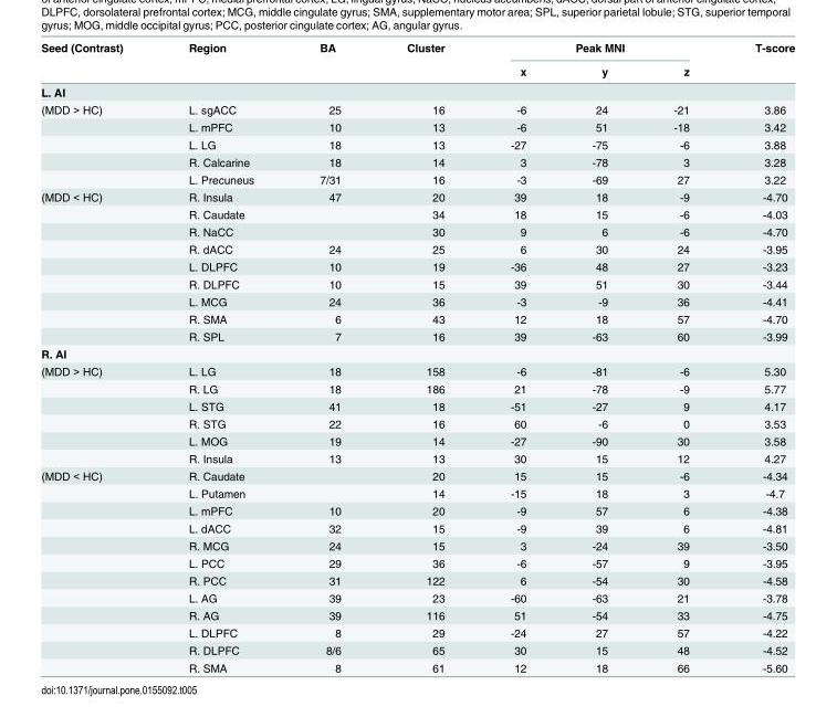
<table><thead><tr><td rowspan="2">Seed (Contrast)</td><td rowspan="2">Region</td><td rowspan="2">BA</td><td rowspan="2">Cluster</td><td colspan="3">Peak MNI</td><td rowspan="2">T-score</td></tr><tr><td>x</td><td>y</td><td>z</td></tr></thead><tbody><tr><td colspan="8">L. AI</td></tr><tr><td rowspan="5">(MDD &gt; HC)</td><td>L. sgACC</td><td>25</td><td>16</td><td>-6</td><td>24</td><td>-21</td><td>3.86</td></tr><tr><td>L. mPFC</td><td>10</td><td>13</td><td>-6</td><td>51</td><td>-18</td><td>3.42</td></tr><tr><td>L. LG</td><td>18</td><td>13</td><td>-27</td><td>-75</td><td>-6</td><td>3.88</td></tr><tr><td>R. Calcarine</td><td>18</td><td>14</td><td>3</td><td>-78</td><td>3</td><td>3.28</td></tr><tr><td>L. Precuneus</td><td>7/31</td><td>16</td><td>-3</td><td>-69</td><td>27</td><td>3.22</td></tr><tr><td rowspan="9">(MDD &lt; HC)</td><td>R. Insula</td><td>47</td><td>20</td><td>39</td><td>18</td><td>-9</td><td>-4.70</td></tr><tr><td>R. Caudate</td><td></td><td>34</td><td>18</td><td>15</td><td>-6</td><td>-4.03</td></tr><tr><td>R. NaCC</td><td></td><td>30</td><td>9</td><td>6</td><td>-6</td><td>-4.70</td></tr><tr><td>R. dACC</td><td>24</td><td>25</td><td>6</td><td>30</td><td>24</td><td>-3.95</td></tr><tr><td>L. DLPFC</td><td>10</td><td>19</td><td>-36</td><td>48</td><td>27</td><td>-3.23</td></tr><tr><td>R. DLPFC</td><td>10</td><td>15</td><td>39</td><td>51</td><td>30</td><td>-3.44</td></tr><tr><td>L. MCG</td><td>24</td><td>36</td><td>-3</td><td>-9</td><td>36</td><td>-4.41</td></tr><tr><td>R. SMA</td><td>6</td><td>43</td><td>12</td><td>18</td><td>57</td><td>-4.70</td></tr><tr><td>R. SPL</td><td>7</td><td>16</td><td>39</td><td>-63</td><td>60</td><td>-3.99</td></tr><tr><td colspan="8">R. AI</td></tr><tr><td rowspan="6">(MDD &gt; HC)</td><td>L. LG</td><td>18</td><td>158</td><td>-6</td><td>-81</td><td>-6</td><td>5.30</td></tr><tr><td>R. LG</td><td>18</td><td>186</td><td>21</td><td>-78</td><td>-9</td><td>5.77</td></tr><tr><td>L. STG</td><td>41</td><td>18</td><td>-51</td><td>-27</td><td>9</td><td>4.17</td></tr><tr><td>R. STG</td><td>22</td><td>16</td><td>60</td><td>-6</td><td>0</td><td>3.53</td></tr><tr><td>L. MOG</td><td>19</td><td>14</td><td>-27</td><td>-90</td><td>30</td><td>3.58</td></tr><tr><td>R. Insula</td><td>13</td><td>13</td><td>30</td><td>15</td><td>12</td><td>4.27</td></tr><tr><td rowspan="12">(MDD &lt; HC)</td><td>R. Caudate</td><td></td><td>20</td><td>15</td><td>15</td><td>-6</td><td>-4.34</td></tr><tr><td>L. Putamen</td><td></td><td>14</td><td>-15</td><td>18</td><td>3</td><td>-4.7</td></tr><tr><td>L. mPFC</td><td>10</td><td>20</td><td>-9</td><td>57</td><td>6</td><td>-4.38</td></tr><tr><td>L. dACC</td><td>32</td><td>15</td><td>-9</td><td>39</td><td>6</td><td>-4.81</td></tr><tr><td>R. MCG</td><td>24</td><td>15</td><td>3</td><td>-24</td><td>39</td><td>-3.50</td></tr><tr><td>L. PCC</td><td>29</td><td>36</td><td>-6</td><td>-57</td><td>9</td><td>-3.95</td></tr><tr><td>R. PCC</td><td>31</td><td>122</td><td>6</td><td>-54</td><td>30</td><td>-4.58</td></tr><tr><td>L. AG</td><td>39</td><td>23</td><td>-60</td><td>-63</td><td>21</td><td>-3.78</td></tr><tr><td>R. AG</td><td>39</td><td>116</td><td>51</td><td>-54</td><td>33</td><td>-4.75</td></tr><tr><td>L. DLPFC</td><td>8</td><td>29</td><td>-24</td><td>27</td><td>57</td><td>-4.22</td></tr><tr><td>R. DLPFC</td><td>8/6</td><td>65</td><td>30</td><td>15</td><td>48</td><td>-4.52</td></tr><tr><td>R. SMA</td><td>8</td><td>61</td><td>12</td><td>18</td><td>66</td><td>-5.60</td></tr></tbody></table>